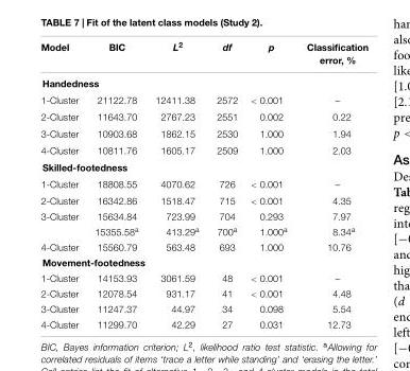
<table><thead><tr><td>Model</td><td>BIC</td><td>L<sup>2</sup></td><td>df</td><td>p</td><td>Classification error, %</td></tr></thead><tbody><tr><td colspan="6">Handedness</td></tr><tr><td>1-Cluster</td><td>21122.78</td><td>12411.38</td><td>2572</td><td>&lt; 0.001</td><td>–</td></tr><tr><td>2-Cluster</td><td>11643.70</td><td>2767.23</td><td>2551</td><td>0.002</td><td>0.22</td></tr><tr><td>3-Cluster</td><td>10903.68</td><td>1862.15</td><td>2530</td><td>1.000</td><td>1.94</td></tr><tr><td>4-Cluster</td><td>10811.76</td><td>1605.17</td><td>2509</td><td>1.000</td><td>2.03</td></tr><tr><td colspan="6">Skilled-footedness</td></tr><tr><td>1-Cluster</td><td>18808.55</td><td>4070.62</td><td>726</td><td>&lt; 0.001</td><td>–</td></tr><tr><td>2-Cluster</td><td>16342.86</td><td>1518.47</td><td>715</td><td>&lt; 0.001</td><td>4.35</td></tr><tr><td rowspan="2">3-Cluster</td><td>15634.84</td><td>723.99</td><td>704</td><td>0.293</td><td>7.97</td></tr><tr><td>15355.58<sup>a</sup></td><td>413.29a</td><td>700<sup>a</sup></td><td>1.000a</td><td>8.34a</td></tr><tr><td>4-Cluster</td><td>15560.79</td><td>563.48</td><td>693</td><td>1.000</td><td>10.76</td></tr><tr><td colspan="6">Movement-footedness</td></tr><tr><td>1-Cluster</td><td>14153.93</td><td>3061.59</td><td>48</td><td>&lt; 0.001</td><td>–</td></tr><tr><td>2-Cluster</td><td>12078.54</td><td>931.17</td><td>41</td><td>&lt; 0.001</td><td>4.48</td></tr><tr><td>3-Cluster</td><td>11247.37</td><td>44.97</td><td>34</td><td>0.098</td><td>5.54</td></tr><tr><td>4-Cluster</td><td>11299.70</td><td>42.29</td><td>27</td><td>0.031</td><td>12.73</td></tr></tbody></table>